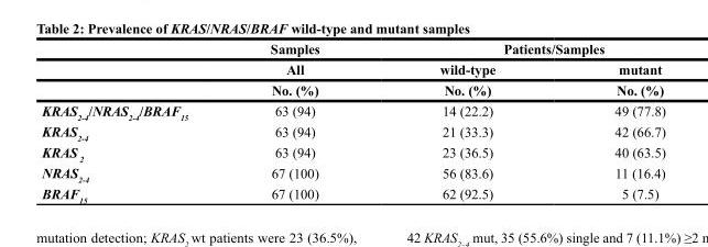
<table><thead><tr><td rowspan="3"></td><td rowspan="3">Samples All No. (%)</td><td colspan="2">Patients/Samples</td></tr><tr><td rowspan="2">wild-type No. (%)</td><td rowspan="2">mutant No. (%)</td></tr><tr></tr></thead><tbody><tr><td>KRAS<sub>2-4</sub>/NRAS<sub>2-4</sub>/BRAF<sub>15</sub></td><td>63 (94)</td><td>14 (22.2)</td><td>49 (77.8)</td></tr><tr><td>KRAS<sub>2-4</sub></td><td>63 (94)</td><td>21 (33.3)</td><td>42 (66.7)</td></tr><tr><td>KRAS <sub>2</sub></td><td>63 (94)</td><td>23 (36.5)</td><td>40 (63.5)</td></tr><tr><td>NRAS<sub>2-4</sub></td><td>67 (100)</td><td>56 (83.6)</td><td>11 (16.4)</td></tr><tr><td>BRAF<sub>15</sub></td><td>67 (100)</td><td>62 (92.5)</td><td>5 (7.5)</td></tr></tbody></table>